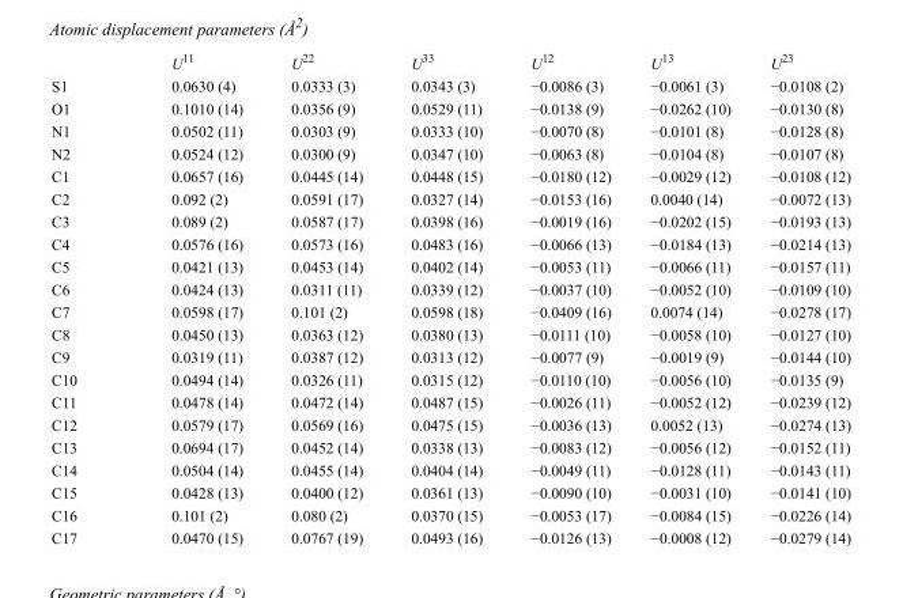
<table><thead><tr><td></td><td>U<sup>11</sup></td><td>U<sup>22</sup></td><td>U<sup>33</sup></td><td>U<sup>12</sup></td><td>U<sup>13</sup></td><td>U<sup>23</sup></td></tr></thead><tbody><tr><td>S1</td><td>0.0630 (4)</td><td>0.0333 (3)</td><td>0.0343 (3)</td><td>−0.0086 (3)</td><td>−0.0061 (3)</td><td>−0.0108 (2)</td></tr><tr><td>O1</td><td>0.1010 (14)</td><td>0.0356 (9)</td><td>0.0529 (11)</td><td>−0.0138 (9)</td><td>−0.0262 (10)</td><td>−0.0130 (8)</td></tr><tr><td>N1</td><td>0.0502 (11)</td><td>0.0303 (9)</td><td>0.0333 (10)</td><td>−0.0070 (8)</td><td>−0.0101 (8)</td><td>−0.0128 (8)</td></tr><tr><td>N2</td><td>0.0524 (12)</td><td>0.0300 (9)</td><td>0.0347 (10)</td><td>−0.0063 (8)</td><td>−0.0104 (8)</td><td>−0.0107 (8)</td></tr><tr><td>C1</td><td>0.0657 (16)</td><td>0.0445 (14)</td><td>0.0448 (15)</td><td>−0.0180 (12)</td><td>−0.0029 (12)</td><td>−0.0108 (12)</td></tr><tr><td>C2</td><td>0.092 (2)</td><td>0.0591 (17)</td><td>0.0327 (14)</td><td>−0.0153 (16)</td><td>0.0040 (14)</td><td>−0.0072 (13)</td></tr><tr><td>C3</td><td>0.089 (2)</td><td>0.0587 (17)</td><td>0.0398 (16)</td><td>−0.0019 (16)</td><td>−0.0202 (15)</td><td>−0.0193 (13)</td></tr><tr><td>C4</td><td>0.0576 (16)</td><td>0.0573 (16)</td><td>0.0483 (16)</td><td>−0.0066 (13)</td><td>−0.0184 (13)</td><td>−0.0214 (13)</td></tr><tr><td>C5</td><td>0.0421 (13)</td><td>0.0453 (14)</td><td>0.0402 (14)</td><td>−0.0053 (11)</td><td>−0.0066 (11)</td><td>−0.0157 (11)</td></tr><tr><td>C6</td><td>0.0424 (13)</td><td>0.0311 (11)</td><td>0.0339 (12)</td><td>−0.0037 (10)</td><td>−0.0052 (10)</td><td>−0.0109 (10)</td></tr><tr><td>C7</td><td>0.0598 (17)</td><td>0.101 (2)</td><td>0.0598 (18)</td><td>−0.0409 (16)</td><td>0.0074 (14)</td><td>−0.0278 (17)</td></tr><tr><td>C8</td><td>0.0450 (13)</td><td>0.0363 (12)</td><td>0.0380 (13)</td><td>−0.0111 (10)</td><td>−0.0058 (10)</td><td>−0.0127 (10)</td></tr><tr><td>C9</td><td>0.0319 (11)</td><td>0.0387 (12)</td><td>0.0313 (12)</td><td>−0.0077 (9)</td><td>−0.0019 (9)</td><td>−0.0144 (10)</td></tr><tr><td>C10</td><td>0.0494 (14)</td><td>0.0326 (11)</td><td>0.0315 (12)</td><td>−0.0110 (10)</td><td>−0.0056 (10)</td><td>−0.0135 (9)</td></tr><tr><td>C11</td><td>0.0478 (14)</td><td>0.0472 (14)</td><td>0.0487 (15)</td><td>−0.0026 (11)</td><td>−0.0052 (12)</td><td>−0.0239 (12)</td></tr><tr><td>C12</td><td>0.0579 (17)</td><td>0.0569 (16)</td><td>0.0475 (15)</td><td>−0.0036 (13)</td><td>0.0052 (13)</td><td>−0.0274 (13)</td></tr><tr><td>C13</td><td>0.0694 (17)</td><td>0.0452 (14)</td><td>0.0338 (13)</td><td>−0.0083 (12)</td><td>−0.0056 (12)</td><td>−0.0152 (11)</td></tr><tr><td>C14</td><td>0.0504 (14)</td><td>0.0455 (14)</td><td>0.0404 (14)</td><td>−0.0049 (11)</td><td>−0.0128 (11)</td><td>−0.0143 (11)</td></tr><tr><td>C15</td><td>0.0428 (13)</td><td>0.0400 (12)</td><td>0.0361 (13)</td><td>−0.0090 (10)</td><td>−0.0031 (10)</td><td>−0.0141 (10)</td></tr><tr><td>C16</td><td>0.101 (2)</td><td>0.080 (2)</td><td>0.0370 (15)</td><td>−0.0053 (17)</td><td>−0.0084 (15)</td><td>−0.0226 (14)</td></tr><tr><td>C17</td><td>0.0470 (15)</td><td>0.0767 (19)</td><td>0.0493 (16)</td><td>−0.0126 (13)</td><td>−0.0008 (12)</td><td>−0.0279 (14)</td></tr></tbody></table>